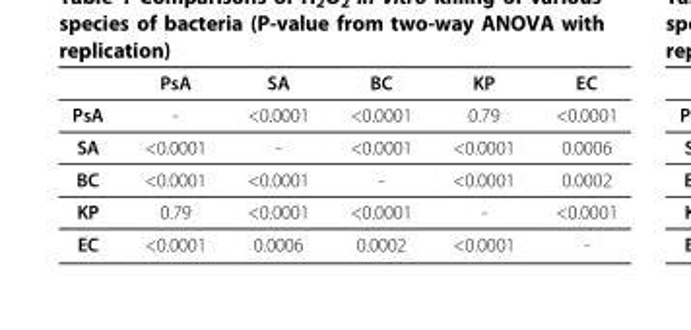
<table><thead><tr><td></td><td>PsA</td><td>SA</td><td>BC</td><td>KP</td><td>EC</td></tr></thead><tbody><tr><td>PsA</td><td>-</td><td>&lt;0.0001</td><td>&lt;0.0001</td><td>0.79</td><td>&lt;0.0001</td></tr><tr><td>SA</td><td>&lt;0.0001</td><td>-</td><td>&lt;0.0001</td><td>&lt;0.0001</td><td>0.0006</td></tr><tr><td>BC</td><td>&lt;0.0001</td><td>&lt;0.0001</td><td>-</td><td>&lt;0.0001</td><td>0.0002</td></tr><tr><td>KP</td><td>0.79</td><td>&lt;0.0001</td><td>&lt;0.0001</td><td>-</td><td>&lt;0.0001</td></tr><tr><td>EC</td><td>&lt;0.0001</td><td>0.0006</td><td>0.0002</td><td>&lt;0.0001</td><td>-</td></tr></tbody></table>